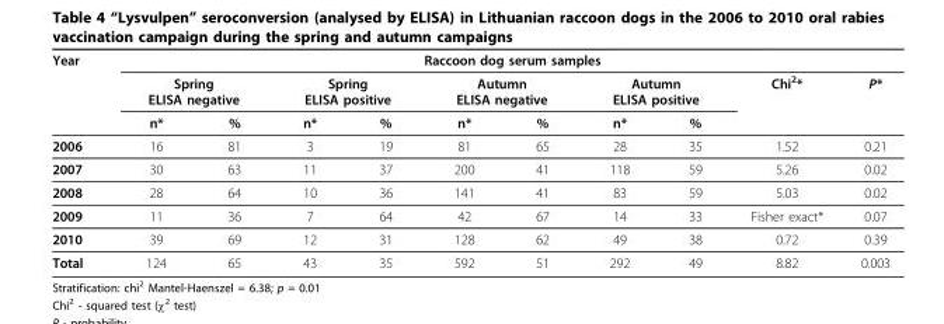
<table><thead><tr><td rowspan="3">Year</td><td colspan="10">Raccoon dog serum samples</td></tr><tr><td colspan="2">Spring ELISA negative</td><td colspan="2">Spring ELISA positive</td><td colspan="2">Autumn ELISA negative</td><td colspan="2">Autumn ELISA positive</td><td rowspan="2">Chi<sup>2</sup>*</td><td rowspan="2">P*</td></tr><tr><td>n*</td><td>%</td><td>n*</td><td>%</td><td>n*</td><td>%</td><td>n*</td><td>%</td></tr></thead><tbody><tr><td>2006</td><td>16</td><td>81</td><td>3</td><td>19</td><td>81</td><td>65</td><td>28</td><td>35</td><td>1.52</td><td>0.21</td></tr><tr><td>2007</td><td>30</td><td>63</td><td>11</td><td>37</td><td>200</td><td>41</td><td>118</td><td>59</td><td>5.26</td><td>0.02</td></tr><tr><td>2008</td><td>28</td><td>64</td><td>10</td><td>36</td><td>141</td><td>41</td><td>83</td><td>59</td><td>5.03</td><td>0.02</td></tr><tr><td>2009</td><td>11</td><td>36</td><td>7</td><td>64</td><td>42</td><td>67</td><td>14</td><td>33</td><td>Fisher exact*</td><td>0.07</td></tr><tr><td>2010</td><td>39</td><td>69</td><td>12</td><td>31</td><td>128</td><td>62</td><td>49</td><td>38</td><td>0.72</td><td>0.39</td></tr><tr><td>Total</td><td>124</td><td>65</td><td>43</td><td>35</td><td>592</td><td>51</td><td>292</td><td>49</td><td>8.82</td><td>0.003</td></tr></tbody></table>